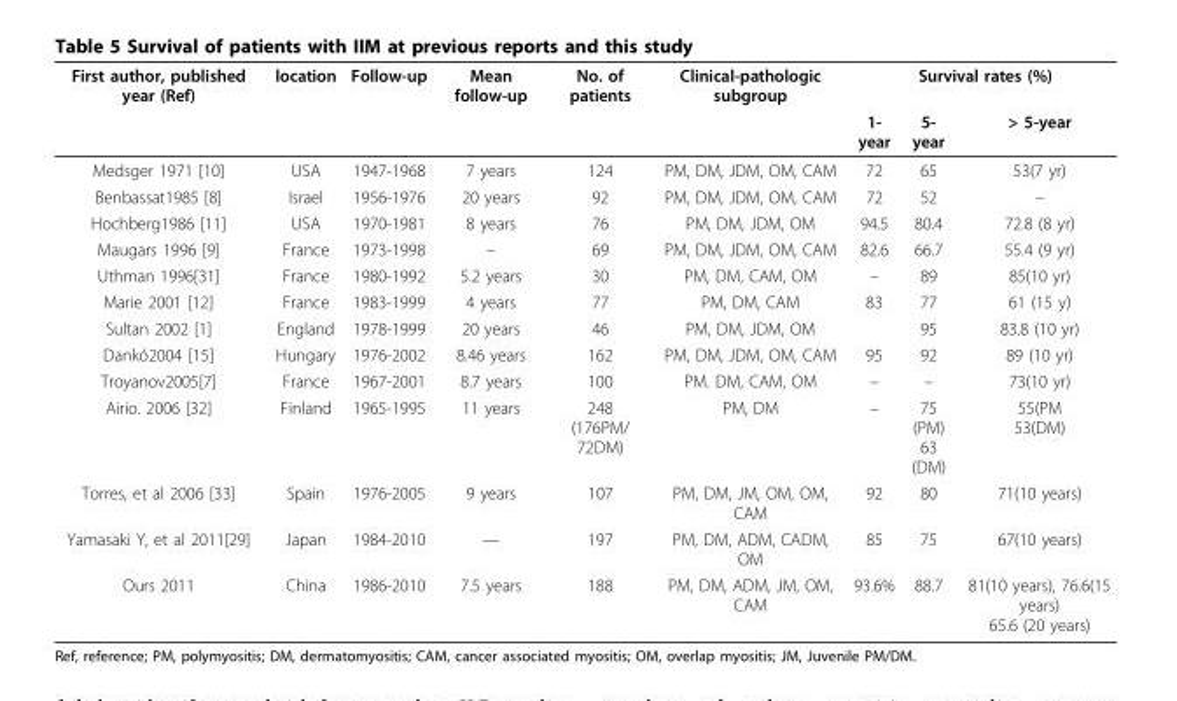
<table><thead><tr><td rowspan="2">First author, published year (Ref)</td><td rowspan="2">location</td><td rowspan="2">Follow-up</td><td rowspan="2">Mean follow-up</td><td rowspan="2">No. of patients</td><td rowspan="2">Clinical-pathologic subgroup</td><td colspan="3">Survival rates (%)</td></tr><tr><td>1- year</td><td>5- year</td><td>&gt; 5-year</td></tr></thead><tbody><tr><td>Medsger 1971 [10]</td><td>USA</td><td>1947-1968</td><td>7 years</td><td>124</td><td>PM, DM, JDM, OM, CAM</td><td>72</td><td>65</td><td>53(7 yr)</td></tr><tr><td>Benbassat1985 [8]</td><td>Israel</td><td>1956-1976</td><td>20 years</td><td>92</td><td>PM, DM, JDM, OM, CAM</td><td>72</td><td>52</td><td>–</td></tr><tr><td>Hochberg1986 [11]</td><td>USA</td><td>1970-1981</td><td>8 years</td><td>76</td><td>PM, DM, JDM, OM</td><td>94.5</td><td>80.4</td><td>72.8 (8 yr)</td></tr><tr><td>Maugars 1996 [9]</td><td>France</td><td>1973-1998</td><td>–</td><td>69</td><td>PM, DM, JDM, OM, CAM</td><td>82.6</td><td>66.7</td><td>55.4 (9 yr)</td></tr><tr><td>Uthman 1996[31]</td><td>France</td><td>1980-1992</td><td>5.2 years</td><td>30</td><td>PM, DM, CAM, OM</td><td>–</td><td>89</td><td>85(10 yr)</td></tr><tr><td>Marie 2001 [12]</td><td>France</td><td>1983-1999</td><td>4 years</td><td>77</td><td>PM, DM, CAM</td><td>83</td><td>77</td><td>61 (15 y)</td></tr><tr><td>Sultan 2002 [1]</td><td>England</td><td>1978-1999</td><td>20 years</td><td>46</td><td>PM, DM, JDM, OM</td><td></td><td>95</td><td>83.8 (10 yr)</td></tr><tr><td>Dankó2004 [15]</td><td>Hungary</td><td>1976-2002</td><td>8.46 years</td><td>162</td><td>PM, DM, JDM, OM, CAM</td><td>95</td><td>92</td><td>89 (10 yr)</td></tr><tr><td>Troyanov2005[7]</td><td>France</td><td>1967-2001</td><td>8.7 years</td><td>100</td><td>PM. DM, CAM, OM</td><td>–</td><td>–</td><td>73(10 yr)</td></tr><tr><td>Airio. 2006 [32]</td><td>Finland</td><td>1965-1995</td><td>11 years</td><td>248 (176PM/ 72DM)</td><td>PM, DM</td><td>–</td><td>75 (PM) 63 (DM)</td><td>55(PM 53(DM)</td></tr><tr><td>Torres, et al 2006 [33]</td><td>Spain</td><td>1976-2005</td><td>9 years</td><td>107</td><td>PM, DM, JM, OM, OM, CAM</td><td>92</td><td>80</td><td>71(10 years)</td></tr><tr><td>Yamasaki Y, et al 2011[29]</td><td>Japan</td><td>1984-2010</td><td>—</td><td>197</td><td>PM, DM, ADM, CADM, OM</td><td>85</td><td>75</td><td>67(10 years)</td></tr><tr><td>Ours 2011</td><td>China</td><td>1986-2010</td><td>7.5 years</td><td>188</td><td>PM, DM, ADM, JM, OM, CAM</td><td>93.6%</td><td>88.7</td><td>81(10 years), 76.6(15 years) 65.6 (20 years)</td></tr></tbody></table>